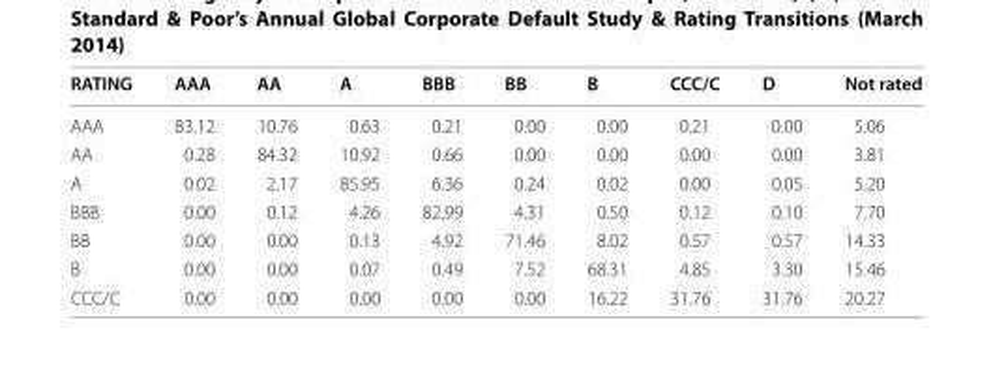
<table><thead><tr><td>RATING</td><td>AAA</td><td>AA</td><td>A</td><td>BBB</td><td>BB</td><td>B</td><td>CCC/C</td><td>D</td><td>Not rated</td></tr></thead><tbody><tr><td>AAA</td><td>83.12</td><td>10.76</td><td>0.63</td><td>0.21</td><td>0.00</td><td>0.00</td><td>0.21</td><td>0.00</td><td>5.06</td></tr><tr><td>AA</td><td>0.28</td><td>84.32</td><td>10.92</td><td>0.66</td><td>0.00</td><td>0.00</td><td>0.00</td><td>0.00</td><td>3.81</td></tr><tr><td>A</td><td>0.02</td><td>2.17</td><td>85.95</td><td>6.36</td><td>0.24</td><td>0.02</td><td>0.00</td><td>0.05</td><td>5.20</td></tr><tr><td>BBB</td><td>0.00</td><td>0.12</td><td>4.26</td><td>82.99</td><td>4.31</td><td>0.50</td><td>0.12</td><td>0.10</td><td>7.70</td></tr><tr><td>BB</td><td>0.00</td><td>0.00</td><td>0.13</td><td>4.92</td><td>71.46</td><td>8.02</td><td>0.57</td><td>0.57</td><td>14.33</td></tr><tr><td>B</td><td>0.00</td><td>0.00</td><td>0.07</td><td>0.49</td><td>7.52</td><td>68.31</td><td>4.85</td><td>3.30</td><td>15.46</td></tr><tr><td>CCC/C</td><td>0.00</td><td>0.00</td><td>0.00</td><td>0.00</td><td>0.00</td><td>16.22</td><td>31.76</td><td>31.76</td><td>20.27</td></tr></tbody></table>